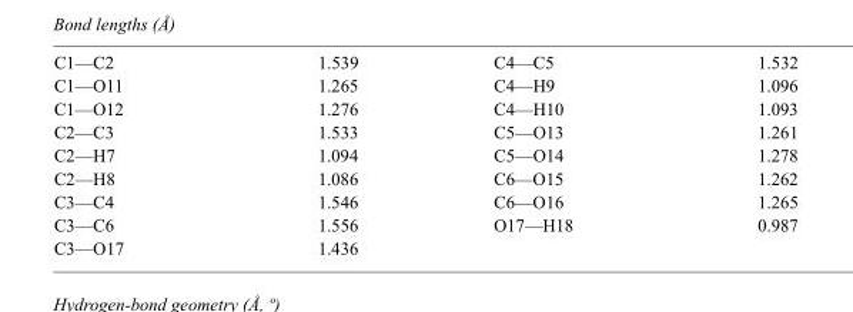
<table><tbody><tr><td>C1—C2</td><td>1.539</td><td>C4—C5</td><td>1.532</td></tr><tr><td>C1—O11</td><td>1.265</td><td>C4—H9</td><td>1.096</td></tr><tr><td>C1—O12</td><td>1.276</td><td>C4—H10</td><td>1.093</td></tr><tr><td>C2—C3</td><td>1.533</td><td>C5—O13</td><td>1.261</td></tr><tr><td>C2—H7</td><td>1.094</td><td>C5—O14</td><td>1.278</td></tr><tr><td>C2—H8</td><td>1.086</td><td>C6—O15</td><td>1.262</td></tr><tr><td>C3—C4</td><td>1.546</td><td>C6—O16</td><td>1.265</td></tr><tr><td>C3—C6</td><td>1.556</td><td>O17—H18</td><td>0.987</td></tr><tr><td>C3—O17</td><td>1.436</td><td></td><td></td></tr></tbody></table>